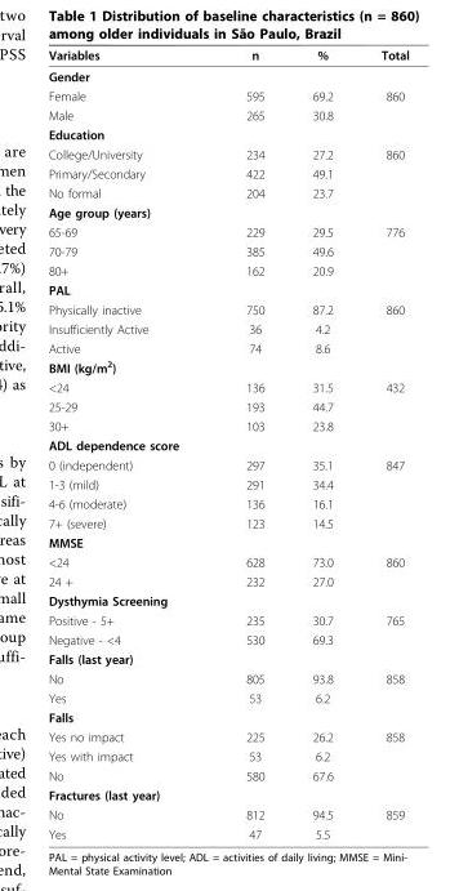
<table><thead><tr><td>Variables</td><td>n</td><td>%</td><td>Total</td></tr></thead><tbody><tr><td colspan="4">Gender</td></tr><tr><td>Female</td><td>595</td><td>69.2</td><td>860</td></tr><tr><td>Male</td><td>265</td><td>30.8</td><td></td></tr><tr><td colspan="4">Education</td></tr><tr><td>College/University</td><td>234</td><td>27.2</td><td>860</td></tr><tr><td>Primary/Secondary</td><td>422</td><td>49.1</td><td></td></tr><tr><td>No formal</td><td>204</td><td>23.7</td><td></td></tr><tr><td colspan="4">Age group (years)</td></tr><tr><td>65-69</td><td>229</td><td>29.5</td><td>776</td></tr><tr><td>70-79</td><td>385</td><td>49.6</td><td></td></tr><tr><td>80+</td><td>162</td><td>20.9</td><td></td></tr><tr><td colspan="4">PAL</td></tr><tr><td>Physically inactive</td><td>750</td><td>87.2</td><td>860</td></tr><tr><td>Insufficiently Active</td><td>36</td><td>4.2</td><td></td></tr><tr><td>Active</td><td>74</td><td>8.6</td><td></td></tr><tr><td colspan="4">BMI (kg/m<sup>2</sup>)</td></tr><tr><td>&lt;24</td><td>136</td><td>31.5</td><td>432</td></tr><tr><td>25-29</td><td>193</td><td>44.7</td><td></td></tr><tr><td>30+</td><td>103</td><td>23.8</td><td></td></tr><tr><td colspan="4">ADL dependence score</td></tr><tr><td>0 (independent)</td><td>297</td><td>35.1</td><td>847</td></tr><tr><td>1-3 (mild)</td><td>291</td><td>34.4</td><td></td></tr><tr><td>4-6 (moderate)</td><td>136</td><td>16.1</td><td></td></tr><tr><td>7+ (severe)</td><td>123</td><td>14.5</td><td></td></tr><tr><td colspan="4">MMSE</td></tr><tr><td>&lt;24</td><td>628</td><td>73.0</td><td>860</td></tr><tr><td>24 +</td><td>232</td><td>27.0</td><td></td></tr><tr><td colspan="4">Dysthymia Screening</td></tr><tr><td>Positive - 5+</td><td>235</td><td>30.7</td><td>765</td></tr><tr><td>Negative - &lt;4</td><td>530</td><td>69.3</td><td></td></tr><tr><td colspan="4">Falls (last year)</td></tr><tr><td>No</td><td>805</td><td>93.8</td><td>858</td></tr><tr><td>Yes</td><td>53</td><td>6.2</td><td></td></tr><tr><td colspan="4">Falls</td></tr><tr><td>Yes no impact</td><td>225</td><td>26.2</td><td>858</td></tr><tr><td>Yes with impact</td><td>53</td><td>6.2</td><td></td></tr><tr><td>No</td><td>580</td><td>67.6</td><td></td></tr><tr><td colspan="4">Fractures (last year)</td></tr><tr><td>No</td><td>812</td><td>94.5</td><td>859</td></tr><tr><td>Yes</td><td>47</td><td>5.5</td><td></td></tr></tbody></table>